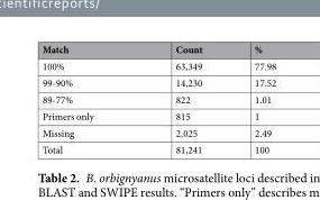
<table><thead><tr><td>Match</td><td>Count</td><td>%</td></tr></thead><tbody><tr><td>100%</td><td>63,349</td><td>77.98</td></tr><tr><td>99-90%</td><td>14,230</td><td>17.52</td></tr><tr><td>89-77%</td><td>822</td><td>1.01</td></tr><tr><td>Primers only</td><td>815</td><td>1</td></tr><tr><td>Missing</td><td>2,025</td><td>2.49</td></tr><tr><td>Total</td><td>81,241</td><td>100</td></tr></tbody></table>